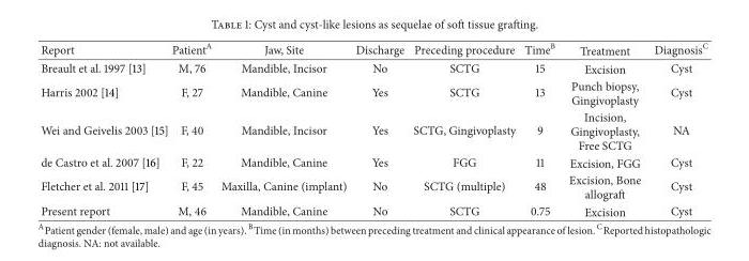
<table><thead><tr><td>Report</td><td>Patient<sup>A</sup></td><td>Jaw, Site</td><td>Discharge</td><td>Preceding procedure</td><td>Time<sup>B</sup></td><td>Treatment</td><td>Diagnosis<sup>C</sup></td></tr></thead><tbody><tr><td>Breault et al. 1997 [13]</td><td>M, 76</td><td>Mandible, Incisor</td><td>No</td><td>SCTG</td><td>15</td><td>Excision</td><td>Cyst</td></tr><tr><td>Harris 2002 [14]</td><td>F, 27</td><td>Mandible, Canine</td><td>Yes</td><td>SCTG</td><td>13</td><td>Punch biopsy, Gingivoplasty</td><td>Cyst</td></tr><tr><td>Wei and Geivelis 2003 [15]</td><td>F, 40</td><td>Mandible, Incisor</td><td>Yes</td><td>SCTG, Gingivoplasty</td><td>9</td><td>Incision, Gingivoplasty, Free SCTG</td><td>NA</td></tr><tr><td>de Castro et al. 2007 [16]</td><td>F, 22</td><td>Mandible, Canine</td><td>Yes</td><td>FGG</td><td>11</td><td>Excision, FGG</td><td>Cyst</td></tr><tr><td>Fletcher et al. 2011 [17]</td><td>F, 45</td><td>Maxilla, Canine (implant)</td><td>No</td><td>SCTG (multiple)</td><td>48</td><td>Excision, Bone allograft</td><td>Cyst</td></tr><tr><td>Present report</td><td>M, 46</td><td>Mandible, Canine</td><td>No</td><td>SCTG</td><td>0.75</td><td>Excision</td><td>Cyst</td></tr></tbody></table>